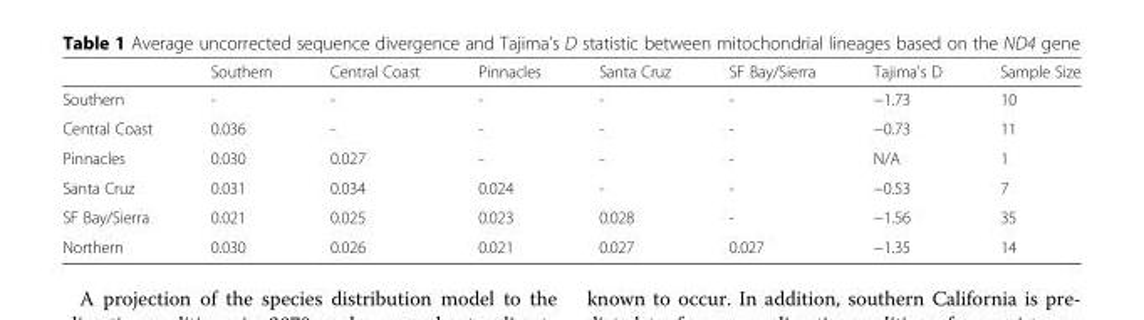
<table><thead><tr><td></td><td>Southern</td><td>Central Coast</td><td>Pinnacles</td><td>Santa Cruz</td><td>SF Bay/Sierra</td><td>Tajima&#x27;s D</td><td>Sample Size</td></tr></thead><tbody><tr><td>Southern</td><td>-</td><td>-</td><td>-</td><td>-</td><td>-</td><td>−1.73</td><td>10</td></tr><tr><td>Central Coast</td><td>0.036</td><td>-</td><td>-</td><td>-</td><td>-</td><td>−0.73</td><td>11</td></tr><tr><td>Pinnacles</td><td>0.030</td><td>0.027</td><td>-</td><td>-</td><td>-</td><td>N/A</td><td>1</td></tr><tr><td>Santa Cruz</td><td>0.031</td><td>0.034</td><td>0.024</td><td>-</td><td>-</td><td>−0.53</td><td>7</td></tr><tr><td>SF Bay/Sierra</td><td>0.021</td><td>0.025</td><td>0.023</td><td>0.028</td><td>-</td><td>−1.56</td><td>35</td></tr><tr><td>Northern</td><td>0.030</td><td>0.026</td><td>0.021</td><td>0.027</td><td>0.027</td><td>−1.35</td><td>14</td></tr></tbody></table>